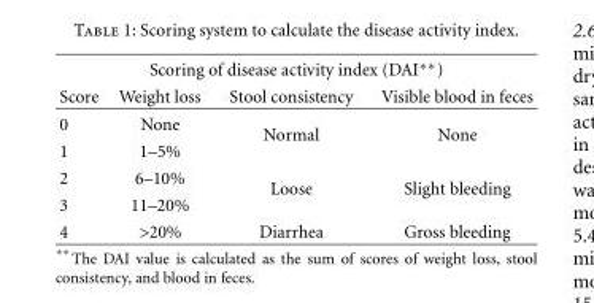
<table><thead><tr><td colspan="4">Scoring of disease activity index (DAI∗∗)</td></tr><tr><td>Score</td><td>Weight loss</td><td>Stool consistency</td><td>Visible blood in feces</td></tr></thead><tbody><tr><td>0</td><td>None</td><td rowspan="2">Normal</td><td rowspan="2">None</td></tr><tr><td>1</td><td>1–5%</td></tr><tr><td>2</td><td>6–10%</td><td rowspan="2">Loose</td><td rowspan="2">Slight bleeding</td></tr><tr><td>3</td><td>11–20%</td></tr><tr><td>4</td><td>&gt;20%</td><td>Diarrhea</td><td>Gross bleeding</td></tr></tbody></table>